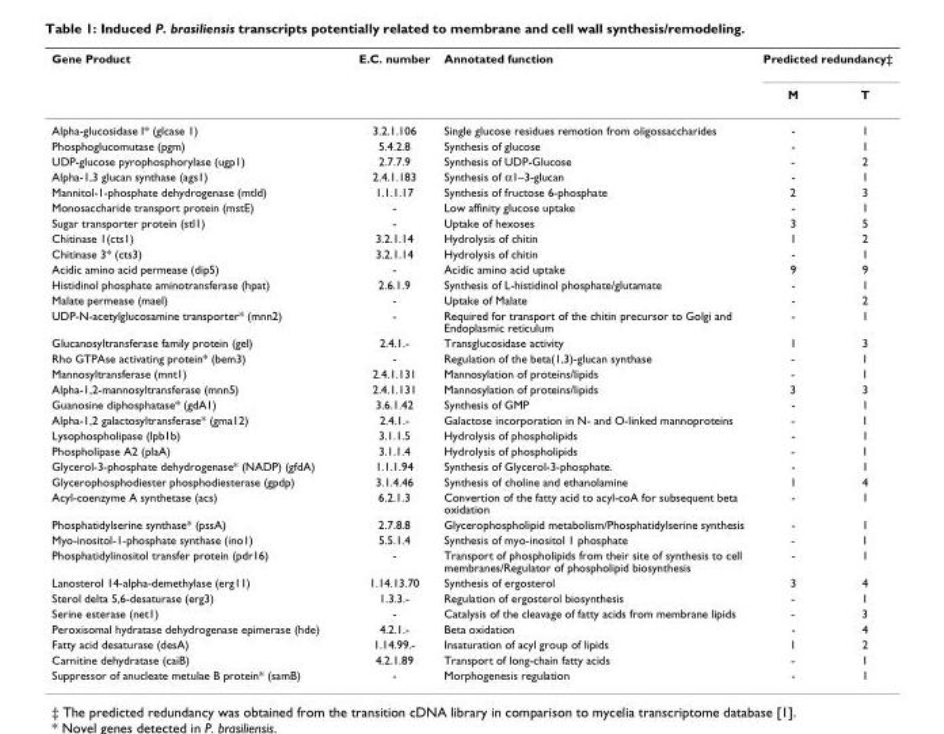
<table><thead><tr><td rowspan="2">Gene Product</td><td rowspan="2">E.C. number</td><td rowspan="2">Annotated function</td><td colspan="2">Predicted redundancy‡</td></tr><tr><td>M</td><td>T</td></tr></thead><tbody><tr><td>Alpha-glucosidase I* (glcase 1)</td><td>3.2.1.106</td><td>Single glucose residues remotion from oligossaccharides</td><td>-</td><td>1</td></tr><tr><td>Phosphoglucomutase (pgm)</td><td>5.4.2.8</td><td>Synthesis of glucose</td><td>-</td><td>1</td></tr><tr><td>UDP-glucose pyrophosphorylase (ugp1)</td><td>2.7.7.9</td><td>Synthesis of UDP-Glucose</td><td>-</td><td>2</td></tr><tr><td>Alpha-1,3 glucan synthase (ags1)</td><td>2.4.1.183</td><td>Synthesis of α1–3-glucan</td><td>-</td><td>1</td></tr><tr><td>Mannitol-1-phosphate dehydrogenase (mtld)</td><td>1.1.1.17</td><td>Synthesis of fructose 6-phosphate</td><td>2</td><td>3</td></tr><tr><td>Monosaccharide transport protein (mstE)</td><td>-</td><td>Low affinity glucose uptake</td><td>-</td><td>1</td></tr><tr><td>Sugar transporter protein (stl1)</td><td>-</td><td>Uptake of hexoses</td><td>3</td><td>5</td></tr><tr><td>Chitinase 1(cts1)</td><td>3.2.1.14</td><td>Hydrolysis of chitin</td><td>1</td><td>2</td></tr><tr><td>Chitinase 3* (cts3)</td><td>3.2.1.14</td><td>Hydrolysis of chitin</td><td>-</td><td>1</td></tr><tr><td>Acidic amino acid permease (dip5)</td><td>-</td><td>Acidic amino acid uptake</td><td>9</td><td>9</td></tr><tr><td>Histidinol phosphate aminotransferase (hpat)</td><td>2.6.1.9</td><td>Synthesis of L-histidinol phosphate/glutamate</td><td>-</td><td>1</td></tr><tr><td>Malate permease (mael)</td><td>-</td><td>Uptake of Malate</td><td>-</td><td>2</td></tr><tr><td>UDP-N-acetylglucosamine transporter* (mnn2)</td><td>-</td><td>Required for transport of the chitin precursor to Golgi and Endoplasmic reticulum</td><td>-</td><td>1</td></tr><tr><td>Glucanosyltransferase family protein (gel)</td><td>2.4.1.-</td><td>Transglucosidase activity</td><td>1</td><td>3</td></tr><tr><td>Rho GTPAse activating protein* (bem3)</td><td>-</td><td>Regulation of the beta(1,3)-glucan synthase</td><td>-</td><td>1</td></tr><tr><td>Mannosyltransferase (mnt1)</td><td>2.4.1.131</td><td>Mannosylation of proteins/lipids</td><td>-</td><td>1</td></tr><tr><td>Alpha-1,2-mannosyltransferase (mnn5)</td><td>2.4.1.131</td><td>Mannosylation of proteins/lipids</td><td>3</td><td>3</td></tr><tr><td>Guanosine diphosphatase* (gdA1)</td><td>3.6.1.42</td><td>Synthesis of GMP</td><td>-</td><td>1</td></tr><tr><td>Alpha-1,2 galactosyltransferase* (gma12)</td><td>2.4.1.-</td><td>Galactose incorporation in N- and O-linked mannoproteins</td><td>-</td><td>1</td></tr><tr><td>Lysophospholipase (lpb1b)</td><td>3.1.1.5</td><td>Hydrolysis of phospholipids</td><td>-</td><td>1</td></tr><tr><td>Phospholipase A2 (plaA)</td><td>3.1.1.4</td><td>Hydrolysis of phospholipids</td><td>-</td><td>1</td></tr><tr><td>Glycerol-3-phosphate dehydrogenase* (NADP) (gfdA)</td><td>1.1.1.94</td><td>Synthesis of Glycerol-3-phosphate.</td><td>-</td><td>1</td></tr><tr><td>Glycerophosphodiester phosphodiesterase (gpdp)</td><td>3.1.4.46</td><td>Synthesis of choline and ethanolamine</td><td>1</td><td>4</td></tr><tr><td>Acyl-coenzyme A synthetase (acs)</td><td>6.2.1.3</td><td>Convertion of the fatty acid to acyl-coA for subsequent beta oxidation</td><td>-</td><td>1</td></tr><tr><td>Phosphatidylserine synthase* (pssA)</td><td>2.7.8.8</td><td>Glycerophospholipid metabolism/Phosphatidylserine synthesis</td><td>-</td><td>1</td></tr><tr><td>Myo-inositol-1-phosphate synthase (ino1)</td><td>5.5.1.4</td><td>Synthesis of myo-inositol 1 phosphate</td><td>-</td><td>1</td></tr><tr><td>Phosphatidylinositol transfer protein (pdr16)</td><td>-</td><td>Transport of phospholipids from their site of synthesis to cell membranes/Regulator of phospholipid biosynthesis</td><td>-</td><td>1</td></tr><tr><td>Lanosterol 14-alpha-demethylase (erg11)</td><td>1.14.13.70</td><td>Synthesis of ergosterol</td><td>3</td><td>4</td></tr><tr><td>Sterol delta 5,6-desaturase (erg3)</td><td>1.3.3.-</td><td>Regulation of ergosterol biosynthesis</td><td>-</td><td>1</td></tr><tr><td>Serine esterase (net1)</td><td>-</td><td>Catalysis of the cleavage of fatty acids from membrane lipids</td><td>-</td><td>3</td></tr><tr><td>Peroxisomal hydratase dehydrogenase epimerase (hde)</td><td>4.2.1.-</td><td>Beta oxidation</td><td>-</td><td>4</td></tr><tr><td>Fatty acid desaturase (desA)</td><td>1.14.99.-</td><td>Insaturation of acyl group of lipids</td><td>1</td><td>2</td></tr><tr><td>Carnitine dehydratase (caiB)</td><td>4.2.1.89</td><td>Transport of long-chain fatty acids</td><td>-</td><td>1</td></tr><tr><td>Suppressor of anucleate metulae B protein* (samB)</td><td>-</td><td>Morphogenesis regulation</td><td>-</td><td>1</td></tr></tbody></table>